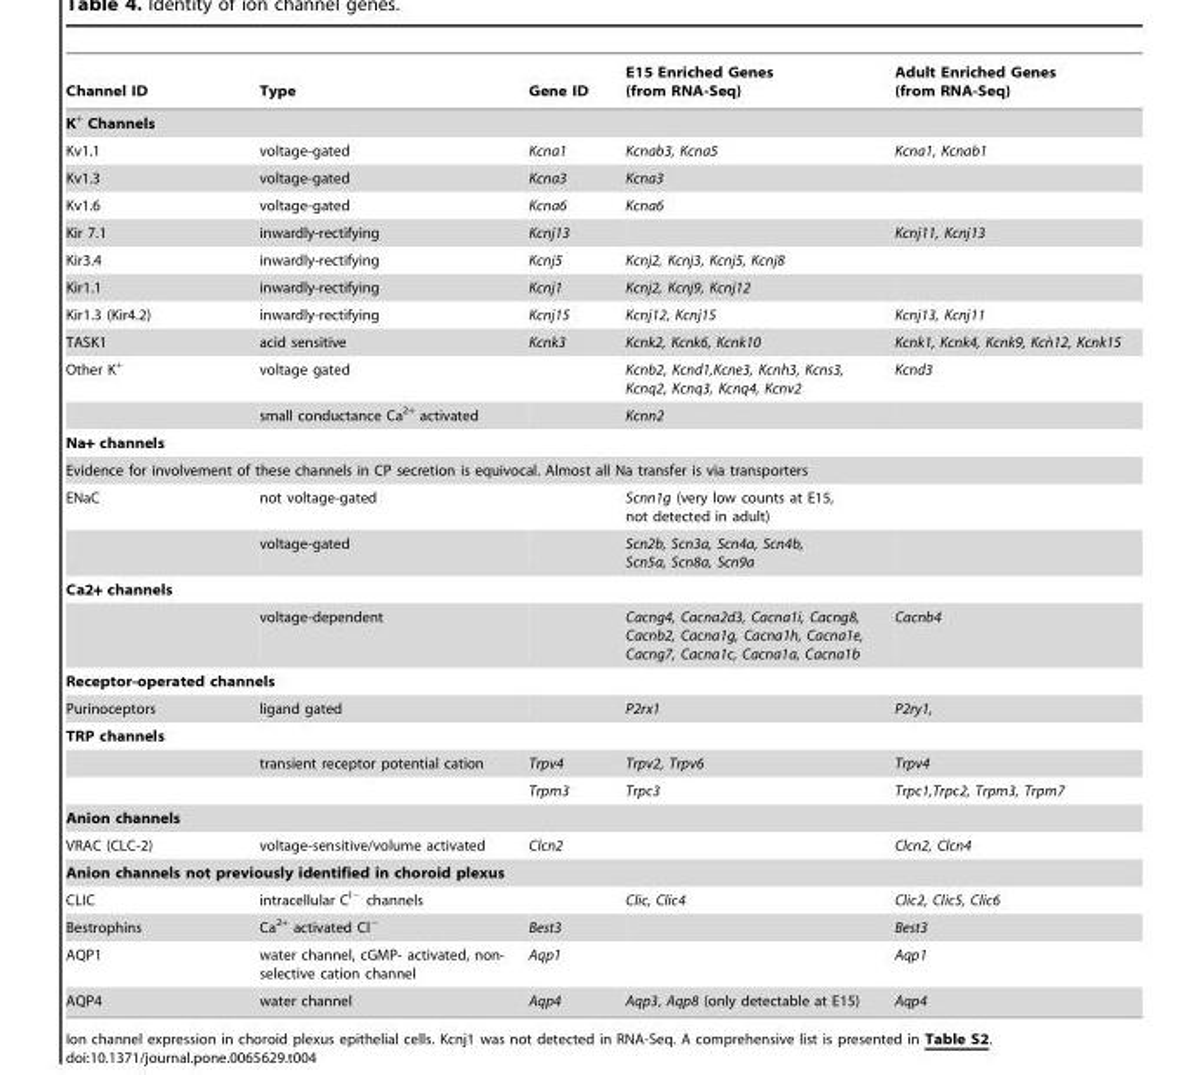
<table><thead><tr><td>Channel ID</td><td>Type</td><td>Gene ID</td><td>E15 Enriched Genes (from RNA-Seq)</td><td>Adult Enriched Genes (from RNA-Seq)</td></tr></thead><tbody><tr><td colspan="5">K<sup>+</sup> Channels</td></tr><tr><td>Kv1.1</td><td>voltage-gated</td><td>Kcna1</td><td>Kcnab3, Kcna5</td><td>Kcna1, Kcnab1</td></tr><tr><td>Kv1.3</td><td>voltage-gated</td><td>Kcna3</td><td>Kcna3</td><td></td></tr><tr><td>Kv1.6</td><td>voltage-gated</td><td>Kcna6</td><td>Kcna6</td><td></td></tr><tr><td>Kir 7.1</td><td>inwardly-rectifying</td><td>Kcnj13</td><td></td><td>Kcnj11, Kcnj13</td></tr><tr><td>Kir3.4</td><td>inwardly-rectifying</td><td>Kcnj5</td><td>Kcnj2, Kcnj3, Kcnj5, Kcnj8</td><td></td></tr><tr><td>Kir1.1</td><td>inwardly-rectifying</td><td>Kcnj1</td><td>Kcnj2, Kcnj9, Kcnj12</td><td></td></tr><tr><td>Kir1.3 (Kir4.2)</td><td>inwardly-rectifying</td><td>Kcnj15</td><td>Kcnj12, Kcnj15</td><td>Kcnj13, Kcnj11</td></tr><tr><td>TASK1</td><td>acid sensitive</td><td>Kcnk3</td><td>Kcnk2, Kcnk6, Kcnk10</td><td>Kcnk1, Kcnk4, Kcnk9, Kcn`12, Kcnk15</td></tr><tr><td rowspan="2">Other K<sup>+</sup></td><td>voltage gated</td><td></td><td>Kcnb2, Kcnd1,Kcne3, Kcnh3, Kcns3, Kcnq2, Kcnq3, Kcnq4, Kcnv2</td><td>Kcnd3</td></tr><tr><td>small conductance Ca<sup>2+</sup> activated</td><td></td><td>Kcnn2</td><td></td></tr><tr><td colspan="5">Na+ channels</td></tr><tr><td colspan="5">Evidence for involvement of these channels in CP secretion is equivocal. Almost all Na transfer is via transporters</td></tr><tr><td rowspan="2">ENaC</td><td>not voltage-gated</td><td></td><td>Scnn1g (very low counts at E15, not detected in adult)</td><td></td></tr><tr><td>voltage-gated</td><td></td><td>Scn2b, Scn3a, Scn4a, Scn4b, Scn5a, Scn8a, Scn9a</td><td></td></tr><tr><td colspan="5">Ca2+ channels</td></tr><tr><td></td><td>voltage-dependent</td><td></td><td>Cacng4, Cacna2d3, Cacna1i, Cacng8, Cacnb2, Cacna1g, Cacna1h, Cacna1e, Cacng7, Cacna1c, Cacna1a, Cacna1b</td><td>Cacnb4</td></tr><tr><td colspan="5">Receptor-operated channels</td></tr><tr><td>Purinoceptors</td><td>ligand gated</td><td></td><td>P2rx1</td><td>P2ry1,</td></tr><tr><td colspan="5">TRP channels</td></tr><tr><td></td><td>transient receptor potential cation</td><td>Trpv4</td><td>Trpv2, Trpv6</td><td>Trpv4</td></tr><tr><td></td><td></td><td>Trpm3</td><td>Trpc3</td><td>Trpc1,Trpc2, Trpm3, Trpm7</td></tr><tr><td colspan="5">Anion channels</td></tr><tr><td>VRAC (CLC-2)</td><td>voltage-sensitive/volume activated</td><td>Clcn2</td><td></td><td>Clcn2, Clcn4</td></tr><tr><td colspan="5">Anion channels not previously identified in choroid plexus</td></tr><tr><td>CLIC</td><td>intracellular C<sup>l−</sup> channels</td><td></td><td>Clic, Clic4</td><td>Clic2, Clic5, Clic6</td></tr><tr><td>Bestrophins</td><td>Ca<sup>2+</sup> activated Cl<sup>−</sup></td><td>Best3</td><td></td><td>Best3</td></tr><tr><td>AQP1</td><td>water channel, cGMP- activated, non- selective cation channel</td><td>Aqp1</td><td></td><td>Aqp1</td></tr><tr><td>AQP4</td><td>water channel</td><td>Aqp4</td><td>Aqp3, Aqp8 (only detectable at E15)</td><td>Aqp4</td></tr></tbody></table>